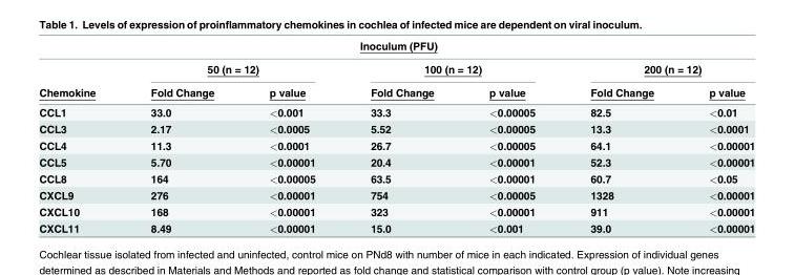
<table><thead><tr><td colspan="7">Inoculum (PFU)</td></tr><tr><td rowspan="2">Chemokine</td><td colspan="2">50 (n = 12)</td><td colspan="2">100 (n = 12)</td><td colspan="2">200 (n = 12)</td></tr><tr><td>Fold Change</td><td>p value</td><td>Fold Change</td><td>p value</td><td>Fold Change</td><td>p value</td></tr></thead><tbody><tr><td>CCL1</td><td>33.0</td><td>&lt;0.001</td><td>33.3</td><td>&lt;0.00005</td><td>82.5</td><td>&lt;0.01</td></tr><tr><td>CCL3</td><td>2.17</td><td>&lt;0.0005</td><td>5.52</td><td>&lt;0.00005</td><td>13.3</td><td>&lt;0.0001</td></tr><tr><td>CCL4</td><td>11.3</td><td>&lt;0.0001</td><td>26.7</td><td>&lt;0.00005</td><td>64.1</td><td>&lt;0.00001</td></tr><tr><td>CCL5</td><td>5.70</td><td>&lt;0.00001</td><td>20.4</td><td>&lt;0.00001</td><td>52.3</td><td>&lt;0.00001</td></tr><tr><td>CCL8</td><td>164</td><td>&lt;0.00005</td><td>63.5</td><td>&lt;0.00001</td><td>60.7</td><td>&lt;0.05</td></tr><tr><td>CXCL9</td><td>276</td><td>&lt;0.00001</td><td>754</td><td>&lt;0.00005</td><td>1328</td><td>&lt;0.00001</td></tr><tr><td>CXCL10</td><td>168</td><td>&lt;0.00001</td><td>323</td><td>&lt;0.00001</td><td>911</td><td>&lt;0.00001</td></tr><tr><td>CXCL11</td><td>8.49</td><td>&lt;0.00001</td><td>15.0</td><td>&lt;0.001</td><td>39.0</td><td>&lt;0.00001</td></tr></tbody></table>